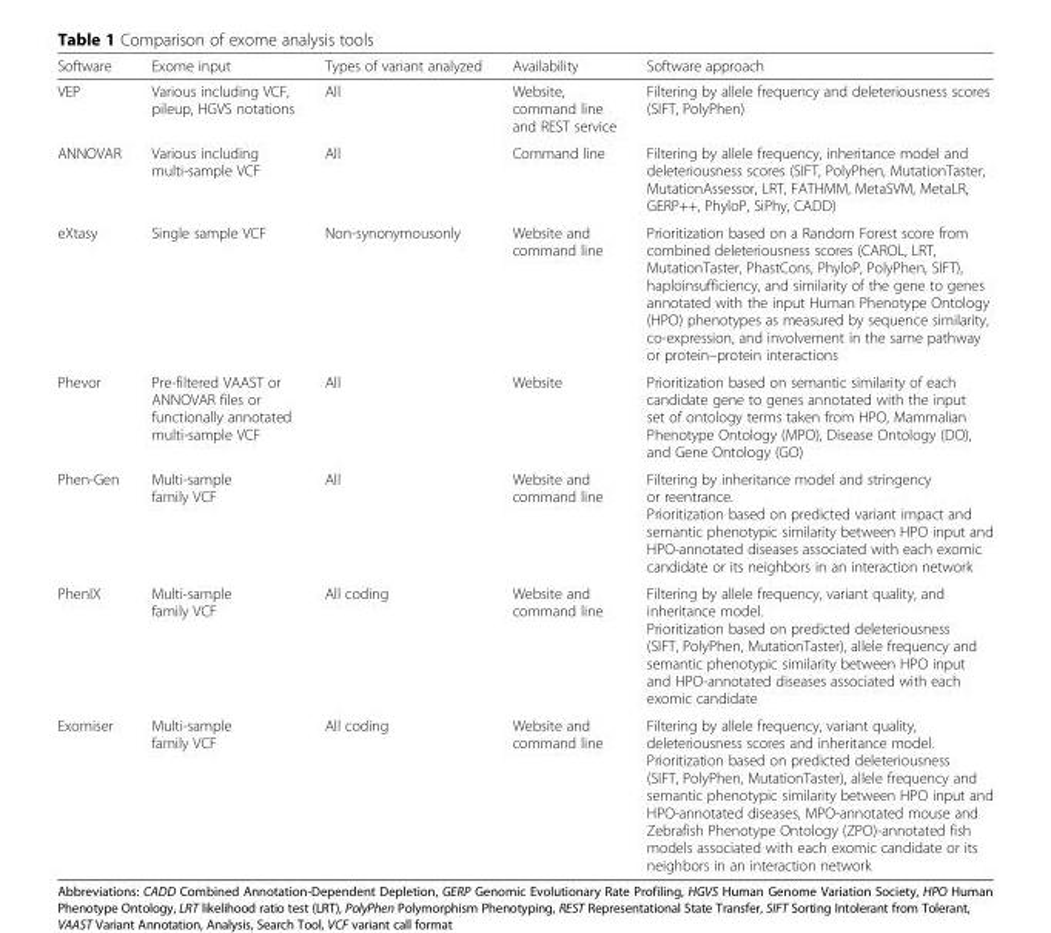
<table><thead><tr><td>Software</td><td>Exome input</td><td>Types of variant analyzed</td><td>Availability</td><td>Software approach</td></tr></thead><tbody><tr><td>VEP</td><td>Various including VCF, pileup, HGVS notations</td><td>All</td><td>Website, command line and REST service</td><td>Filtering by allele frequency and deleteriousness scores (SIFT, PolyPhen)</td></tr><tr><td>ANNOVAR</td><td>Various including multi-sample VCF</td><td>All</td><td>Command line</td><td>Filtering by allele frequency, inheritance model and deleteriousness scores (SIFT, PolyPhen, MutationTaster, MutationAssessor, LRT, FATHMM, MetaSVM, MetaLR, GERP++, PhyloP, SiPhy, CADD)</td></tr><tr><td>eXtasy</td><td>Single sample VCF</td><td>Non-synonymousonly</td><td>Website and command line</td><td>Prioritization based on a Random Forest score from combined deleteriousness scores (CAROL, LRT, MutationTaster, PhastCons, PhyloP, PolyPhen, SIFT), haploinsufficiency, and similarity of the gene to genes annotated with the input Human Phenotype Ontology (HPO) phenotypes as measured by sequence similarity, co-expression, and involvement in the same pathway or protein–protein interactions</td></tr><tr><td>Phevor</td><td>Pre-filtered VAAST or ANNOVAR files or functionally annotated multi-sample VCF</td><td>All</td><td>Website</td><td>Prioritization based on semantic similarity of each candidate gene to genes annotated with the input set of ontology terms taken from HPO, Mammalian Phenotype Ontology (MPO), Disease Ontology (DO), and Gene Ontology (GO)</td></tr><tr><td>Phen-Gen</td><td>Multi-sample family VCF</td><td>All</td><td>Website and command line</td><td>Filtering by inheritance model and stringency or reentrance. Prioritization based on predicted variant impact and semantic phenotypic similarity between HPO input and HPO-annotated diseases associated with each exomic candidate or its neighbors in an interaction network</td></tr><tr><td>PhenIX</td><td>Multi-sample family VCF</td><td>All coding</td><td>Website and command line</td><td>Filtering by allele frequency, variant quality, and inheritance model. Prioritization based on predicted deleteriousness (SIFT, PolyPhen, MutationTaster), allele frequency and semantic phenotypic similarity between HPO input and HPO-annotated diseases associated with each exomic candidate</td></tr><tr><td>Exomiser</td><td>Multi-sample family VCF</td><td>All coding</td><td>Website and command line</td><td>Filtering by allele frequency, variant quality, deleteriousness scores and inheritance model. Prioritization based on predicted deleteriousness (SIFT, PolyPhen, MutationTaster), allele frequency and semantic phenotypic similarity between HPO input and HPO-annotated diseases, MPO-annotated mouse and Zebrafish Phenotype Ontology (ZPO)-annotated fish models associated with each exomic candidate or its neighbors in an interaction network</td></tr></tbody></table>